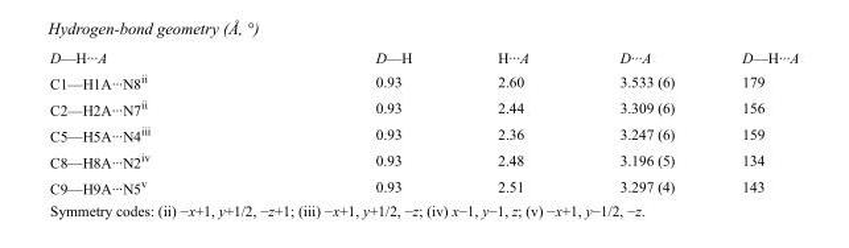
<table><tbody><tr><td>D—H···A</td><td>D—H</td><td>H···A</td><td>D···A</td><td>D—H···A</td></tr><tr><td>C1—H1A···N8<sup>ii</sup></td><td>0.93</td><td>2.60</td><td>3.533 (6)</td><td>179</td></tr><tr><td>C2—H2A···N7<sup>ii</sup></td><td>0.93</td><td>2.44</td><td>3.309 (6)</td><td>156</td></tr><tr><td>C5—H5A···N4<sup>iii</sup></td><td>0.93</td><td>2.36</td><td>3.247 (6)</td><td>159</td></tr><tr><td>C8—H8A···N2<sup>iv</sup></td><td>0.93</td><td>2.48</td><td>3.196 (5)</td><td>134</td></tr><tr><td>C9—H9A···N5<sup>v</sup></td><td>0.93</td><td>2.51</td><td>3.297 (4)</td><td>143</td></tr></tbody></table>